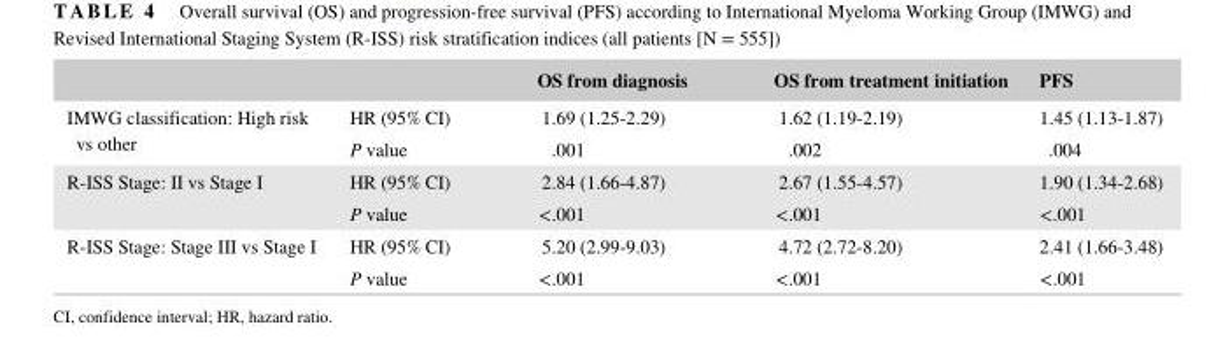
<table><thead><tr><td></td><td></td><td>OS from diagnosis</td><td>OS from treatment initiation</td><td>PFS</td></tr></thead><tbody><tr><td rowspan="2">IMWG classification: High risk vs other</td><td>HR (95% CI)</td><td>1.69 (1.25- 2.29)</td><td>1.62 (1.19- 2.19)</td><td>1.45 (1.13- 1.87)</td></tr><tr><td>P value</td><td>.001</td><td>.002</td><td>.004</td></tr><tr><td rowspan="2">R- ISS Stage: II vs Stage I</td><td>HR (95% CI)</td><td>2.84 (1.66- 4.87)</td><td>2.67 (1.55- 4.57)</td><td>1.90 (1.34- 2.68)</td></tr><tr><td>P value</td><td>&lt;.001</td><td>&lt;.001</td><td>&lt;.001</td></tr><tr><td rowspan="2">R- ISS Stage: Stage III vs Stage I</td><td>HR (95% CI)</td><td>5.20 (2.99- 9.03)</td><td>4.72 (2.72- 8.20)</td><td>2.41 (1.66- 3.48)</td></tr><tr><td>P value</td><td>&lt;.001</td><td>&lt;.001</td><td>&lt;.001</td></tr></tbody></table>